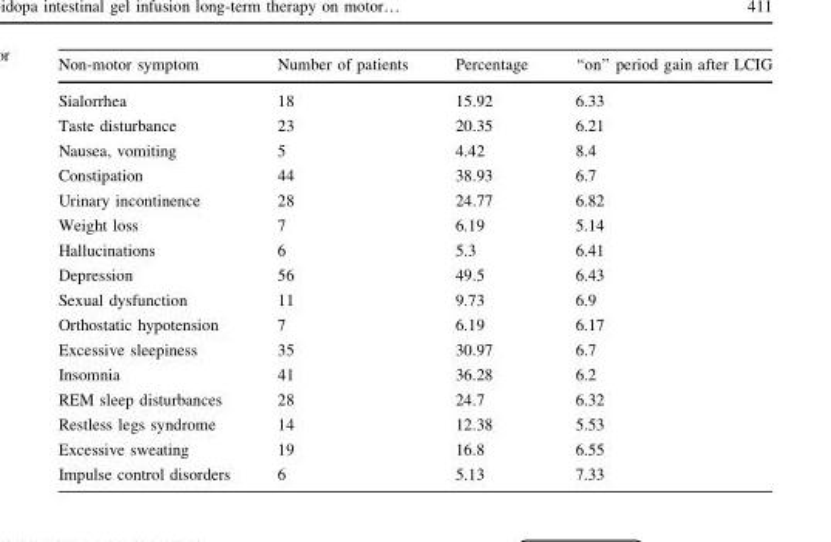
<table><thead><tr><td>Non-motor symptom</td><td>Number of patients</td><td>Percentage</td><td>‘‘on’’ period gain after LCIG</td></tr></thead><tbody><tr><td>Sialorrhea</td><td>18</td><td>15.92</td><td>6.33</td></tr><tr><td>Taste disturbance</td><td>23</td><td>20.35</td><td>6.21</td></tr><tr><td>Nausea, vomiting</td><td>5</td><td>4.42</td><td>8.4</td></tr><tr><td>Constipation</td><td>44</td><td>38.93</td><td>6.7</td></tr><tr><td>Urinary incontinence</td><td>28</td><td>24.77</td><td>6.82</td></tr><tr><td>Weight loss</td><td>7</td><td>6.19</td><td>5.14</td></tr><tr><td>Hallucinations</td><td>6</td><td>5.3</td><td>6.41</td></tr><tr><td>Depression</td><td>56</td><td>49.5</td><td>6.43</td></tr><tr><td>Sexual dysfunction</td><td>11</td><td>9.73</td><td>6.9</td></tr><tr><td>Orthostatic hypotension</td><td>7</td><td>6.19</td><td>6.17</td></tr><tr><td>Excessive sleepiness</td><td>35</td><td>30.97</td><td>6.7</td></tr><tr><td>Insomnia</td><td>41</td><td>36.28</td><td>6.2</td></tr><tr><td>REM sleep disturbances</td><td>28</td><td>24.7</td><td>6.32</td></tr><tr><td>Restless legs syndrome</td><td>14</td><td>12.38</td><td>5.53</td></tr><tr><td>Excessive sweating</td><td>19</td><td>16.8</td><td>6.55</td></tr><tr><td>Impulse control disorders</td><td>6</td><td>5.13</td><td>7.33</td></tr></tbody></table>